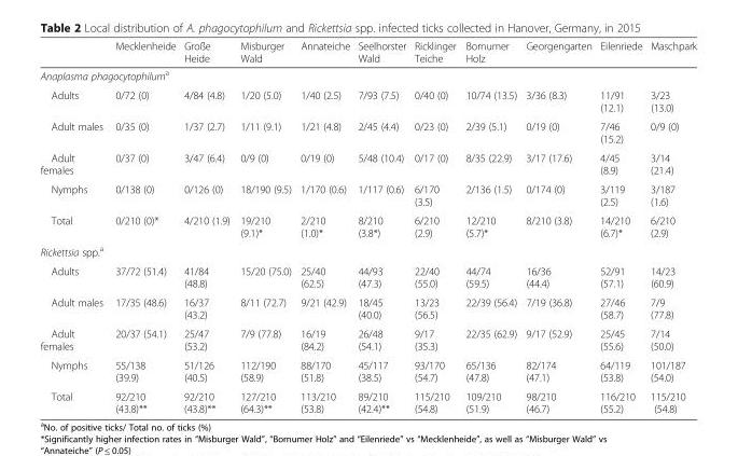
<table><thead><tr><td></td><td>Mecklenheide</td><td>Große Heide</td><td>Misburger Wald</td><td>Annateiche</td><td>Seelhorster Wald</td><td>Ricklinger Teiche</td><td>Bornumer Holz</td><td>Georgengarten</td><td>Eilenriede</td><td>Maschpark</td></tr></thead><tbody><tr><td colspan="11">Anaplasma phagocytophilum<sup>a</sup></td></tr><tr><td>Adults</td><td>0/72 (0)</td><td>4/84 (4.8)</td><td>1/20 (5.0)</td><td>1/40 (2.5)</td><td>7/93 (7.5)</td><td>0/40 (0)</td><td>10/74 (13.5)</td><td>3/36 (8.3)</td><td>11/91 (12.1)</td><td>3/23 (13.0)</td></tr><tr><td>Adult males</td><td>0/35 (0)</td><td>1/37 (2.7)</td><td>1/11 (9.1)</td><td>1/21 (4.8)</td><td>2/45 (4.4)</td><td>0/23 (0)</td><td>2/39 (5.1)</td><td>0/19 (0)</td><td>7/46 (15.2)</td><td>0/9 (0)</td></tr><tr><td>Adult females</td><td>0/37 (0)</td><td>3/47 (6.4)</td><td>0/9 (0)</td><td>0/19 (0)</td><td>5/48 (10.4)</td><td>0/17 (0)</td><td>8/35 (22.9)</td><td>3/17 (17.6)</td><td>4/45 (8.9)</td><td>3/14 (21.4)</td></tr><tr><td>Nymphs</td><td>0/138 (0)</td><td>0/126 (0)</td><td>18/190 (9.5)</td><td>1/170 (0.6)</td><td>1/117 (0.6)</td><td>6/170 (3.5)</td><td>2/136 (1.5)</td><td>0/174 (0)</td><td>3/119 (2.5)</td><td>3/187 (1.6)</td></tr><tr><td>Total</td><td>0/210 (0)*</td><td>4/210 (1.9)</td><td>19/210 (9.1)*</td><td>2/210 (1.0)*</td><td>8/210 (3.8*)</td><td>6/210 (2.9)</td><td>12/210 (5.7)*</td><td>8/210 (3.8)</td><td>14/210 (6.7)*</td><td>6/210 (2.9)</td></tr><tr><td colspan="11">Rickettsia spp.<sup>a</sup></td></tr><tr><td>Adults</td><td>37/72 (51.4)</td><td>41/84 (48.8)</td><td>15/20 (75.0)</td><td>25/40 (62.5)</td><td>44/93 (47.3)</td><td>22/40 (55.0)</td><td>44/74 (59.5)</td><td>16/36 (44.4)</td><td>52/91 (57.1)</td><td>14/23 (60.9)</td></tr><tr><td>Adult males</td><td>17/35 (48.6)</td><td>16/37 (43.2)</td><td>8/11 (72.7)</td><td>9/21 (42.9)</td><td>18/45 (40.0)</td><td>13/23 (56.5)</td><td>22/39 (56.4)</td><td>7/19 (36.8)</td><td>27/46 (58.7)</td><td>7/9 (77.8)</td></tr><tr><td>Adult females</td><td>20/37 (54.1)</td><td>25/47 (53.2)</td><td>7/9 (77.8)</td><td>16/19 (84.2)</td><td>26/48 (54.1)</td><td>9/17 (35.3)</td><td>22/35 (62.9)</td><td>9/17 (52.9)</td><td>25/45 (55.6)</td><td>7/14 (50.0)</td></tr><tr><td>Nymphs</td><td>55/138 (39.9)</td><td>51/126 (40.5)</td><td>112/190 (58.9)</td><td>88/170 (51.8)</td><td>45/117 (38.5)</td><td>93/170 (54.7)</td><td>65/136 (47.8)</td><td>82/174 (47.1)</td><td>64/119 (53.8)</td><td>101/187 (54.0)</td></tr><tr><td>Total</td><td>92/210 (43.8)**</td><td>92/210 (43.8)**</td><td>127/210 (64.3)**</td><td>113/210 (53.8)</td><td>89/210 (42.4)**</td><td>115/210 (54.8)</td><td>109/210 (51.9)</td><td>98/210 (46.7)</td><td>116/210 (55.2)</td><td>115/210 (54.8)</td></tr></tbody></table>